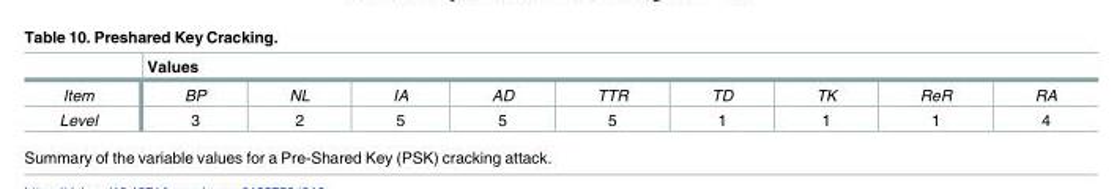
<table><thead><tr><td rowspan="2">Item</td><td colspan="9">Values</td></tr><tr><td>BP</td><td>NL</td><td>IA</td><td>AD</td><td>TTR</td><td>TD</td><td>TK</td><td>ReR</td><td>RA</td></tr></thead><tbody><tr><td>Level</td><td>3</td><td>2</td><td>5</td><td>5</td><td>5</td><td>1</td><td>1</td><td>1</td><td>4</td></tr></tbody></table>